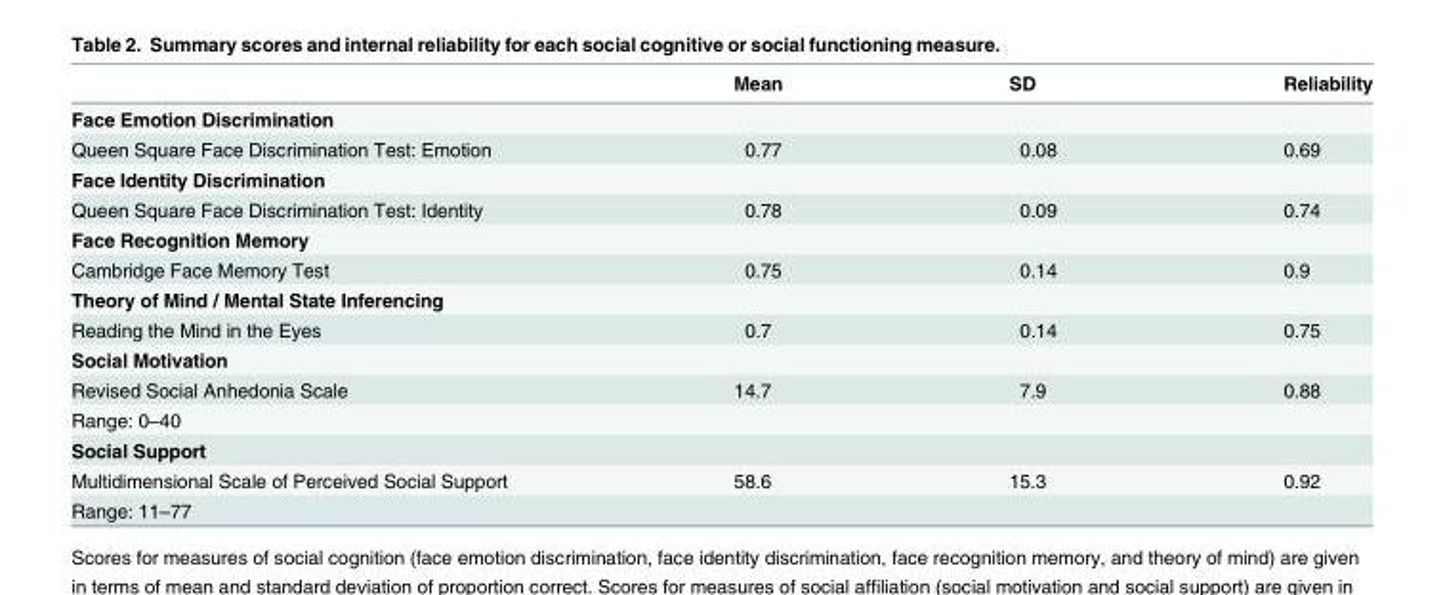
<table><thead><tr><td></td><td>Mean</td><td>SD</td><td>Reliability</td></tr></thead><tbody><tr><td colspan="4">Face Emotion Discrimination</td></tr><tr><td>Queen Square Face Discrimination Test: Emotion</td><td>0.77</td><td>0.08</td><td>0.69</td></tr><tr><td colspan="4">Face Identity Discrimination</td></tr><tr><td>Queen Square Face Discrimination Test: Identity</td><td>0.78</td><td>0.09</td><td>0.74</td></tr><tr><td colspan="4">Face Recognition Memory</td></tr><tr><td>Cambridge Face Memory Test</td><td>0.75</td><td>0.14</td><td>0.9</td></tr><tr><td colspan="4">Theory of Mind / Mental State Inferencing</td></tr><tr><td>Reading the Mind in the Eyes</td><td>0.7</td><td>0.14</td><td>0.75</td></tr><tr><td colspan="4">Social Motivation</td></tr><tr><td>Revised Social Anhedonia Scale</td><td>14.7</td><td>7.9</td><td>0.88</td></tr><tr><td colspan="4">Range: 0–40</td></tr><tr><td colspan="4">Social Support</td></tr><tr><td>Multidimensional Scale of Perceived Social Support</td><td>58.6</td><td>15.3</td><td>0.92</td></tr><tr><td>Range: 11–77</td><td></td><td></td><td></td></tr></tbody></table>